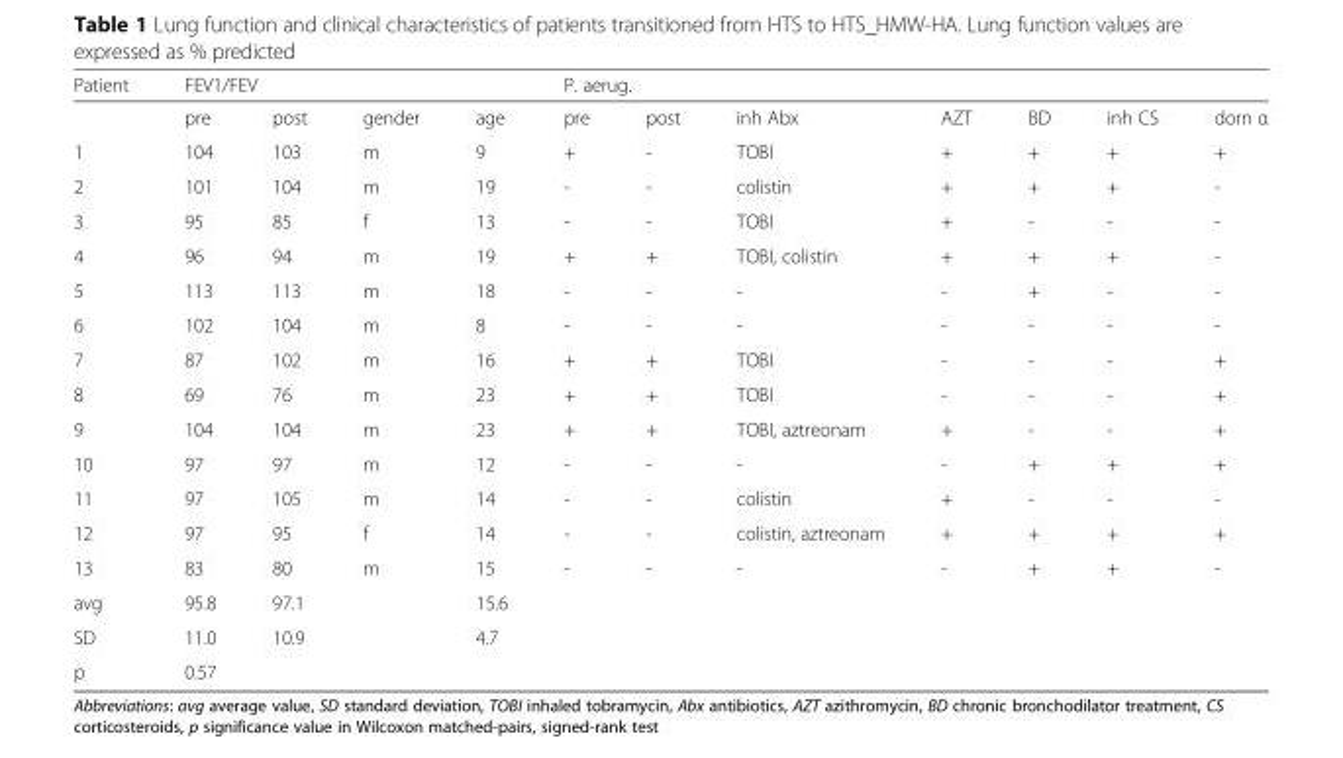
<table><thead><tr><td rowspan="2">Patient</td><td colspan="4">FEV1/FEV</td><td colspan="7">P. aerug.</td></tr><tr><td>pre</td><td>post</td><td>gender</td><td>age</td><td>pre</td><td>post</td><td>inh Abx</td><td>AZT</td><td>BD</td><td>inh CS</td><td>dorn α</td></tr></thead><tbody><tr><td>1</td><td>104</td><td>103</td><td>m</td><td>9</td><td>+</td><td>-</td><td>TOBI</td><td>+</td><td>+</td><td>+</td><td>+</td></tr><tr><td>2</td><td>101</td><td>104</td><td>m</td><td>19</td><td>-</td><td>-</td><td>colistin</td><td>+</td><td>+</td><td>+</td><td>-</td></tr><tr><td>3</td><td>95</td><td>85</td><td>f</td><td>13</td><td>-</td><td>-</td><td>TOBI</td><td>+</td><td>-</td><td>-</td><td>-</td></tr><tr><td>4</td><td>96</td><td>94</td><td>m</td><td>19</td><td>+</td><td>+</td><td>TOBI, colistin</td><td>+</td><td>+</td><td>+</td><td>-</td></tr><tr><td>5</td><td>113</td><td>113</td><td>m</td><td>18</td><td>-</td><td>-</td><td>-</td><td>-</td><td>+</td><td>-</td><td>-</td></tr><tr><td>6</td><td>102</td><td>104</td><td>m</td><td>8</td><td>-</td><td>-</td><td>-</td><td>-</td><td>-</td><td>-</td><td>-</td></tr><tr><td>7</td><td>87</td><td>102</td><td>m</td><td>16</td><td>+</td><td>+</td><td>TOBI</td><td>-</td><td>-</td><td>-</td><td>+</td></tr><tr><td>8</td><td>69</td><td>76</td><td>m</td><td>23</td><td>+</td><td>+</td><td>TOBI</td><td>-</td><td>-</td><td>-</td><td>+</td></tr><tr><td>9</td><td>104</td><td>104</td><td>m</td><td>23</td><td>+</td><td>+</td><td>TOBI, aztreonam</td><td>+</td><td>-</td><td>-</td><td>+</td></tr><tr><td>10</td><td>97</td><td>97</td><td>m</td><td>12</td><td>-</td><td>-</td><td>-</td><td>-</td><td>+</td><td>+</td><td>+</td></tr><tr><td>11</td><td>97</td><td>105</td><td>m</td><td>14</td><td>-</td><td>-</td><td>colistin</td><td>+</td><td>-</td><td>-</td><td>-</td></tr><tr><td>12</td><td>97</td><td>95</td><td>f</td><td>14</td><td>-</td><td>-</td><td>colistin, aztreonam</td><td>+</td><td>+</td><td>+</td><td>+</td></tr><tr><td>13</td><td>83</td><td>80</td><td>m</td><td>15</td><td>-</td><td>-</td><td>-</td><td>-</td><td>+</td><td>+</td><td>-</td></tr><tr><td>avg</td><td>95.8</td><td>97.1</td><td></td><td>15.6</td><td></td><td></td><td></td><td></td><td></td><td></td><td></td></tr><tr><td>SD</td><td>11.0</td><td>10.9</td><td></td><td>4.7</td><td></td><td></td><td></td><td></td><td></td><td></td><td></td></tr><tr><td>p</td><td colspan="2">0.57</td><td></td><td></td><td></td><td></td><td></td><td></td><td></td><td></td><td></td></tr></tbody></table>